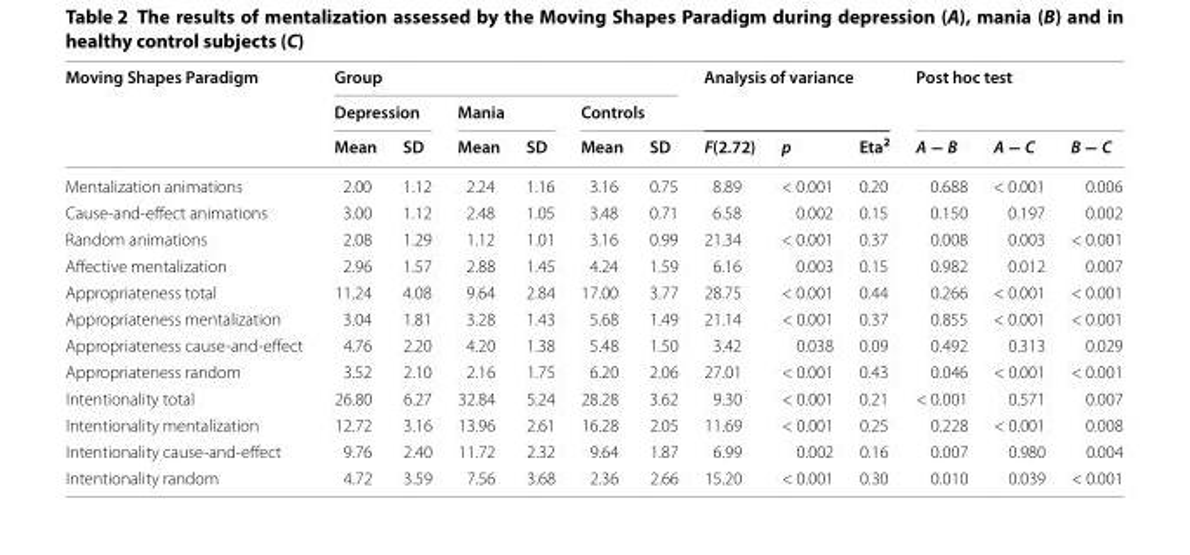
<table><thead><tr><td rowspan="3">Moving Shapes Paradigm</td><td colspan="6">Group</td><td rowspan="2" colspan="3">Analysis of variance</td><td rowspan="2" colspan="3">Post hoc test</td></tr><tr><td colspan="2">Depression</td><td colspan="2">Mania</td><td colspan="2">Controls</td></tr><tr><td>Mean</td><td>SD</td><td>Mean</td><td>SD</td><td>Mean</td><td>SD</td><td>F(2.72)</td><td>p</td><td>Eta<sup>2</sup></td><td>A − B</td><td>A − C</td><td>B − C</td></tr></thead><tbody><tr><td>Mentalization animations</td><td>2.00</td><td>1.12</td><td>2.24</td><td>1.16</td><td>3.16</td><td>0.75</td><td>8.89</td><td>&lt; 0.001</td><td>0.20</td><td>0.688</td><td>&lt; 0.001</td><td>0.006</td></tr><tr><td>Cause-and-effect animations</td><td>3.00</td><td>1.12</td><td>2.48</td><td>1.05</td><td>3.48</td><td>0.71</td><td>6.58</td><td>0.002</td><td>0.15</td><td>0.150</td><td>0.197</td><td>0.002</td></tr><tr><td>Random animations</td><td>2.08</td><td>1.29</td><td>1.12</td><td>1.01</td><td>3.16</td><td>0.99</td><td>21.34</td><td>&lt; 0.001</td><td>0.37</td><td>0.008</td><td>0.003</td><td>&lt; 0.001</td></tr><tr><td>Affective mentalization</td><td>2.96</td><td>1.57</td><td>2.88</td><td>1.45</td><td>4.24</td><td>1.59</td><td>6.16</td><td>0.003</td><td>0.15</td><td>0.982</td><td>0.012</td><td>0.007</td></tr><tr><td>Appropriateness total</td><td>11.24</td><td>4.08</td><td>9.64</td><td>2.84</td><td>17.00</td><td>3.77</td><td>28.75</td><td>&lt; 0.001</td><td>0.44</td><td>0.266</td><td>&lt; 0.001</td><td>&lt; 0.001</td></tr><tr><td>Appropriateness mentalization</td><td>3.04</td><td>1.81</td><td>3.28</td><td>1.43</td><td>5.68</td><td>1.49</td><td>21.14</td><td>&lt; 0.001</td><td>0.37</td><td>0.855</td><td>&lt; 0.001</td><td>&lt; 0.001</td></tr><tr><td>Appropriateness cause-and-effect</td><td>4.76</td><td>2.20</td><td>4.20</td><td>1.38</td><td>5.48</td><td>1.50</td><td>3.42</td><td>0.038</td><td>0.09</td><td>0.492</td><td>0.313</td><td>0.029</td></tr><tr><td>Appropriateness random</td><td>3.52</td><td>2.10</td><td>2.16</td><td>1.75</td><td>6.20</td><td>2.06</td><td>27.01</td><td>&lt; 0.001</td><td>0.43</td><td>0.046</td><td>&lt; 0.001</td><td>&lt; 0.001</td></tr><tr><td>Intentionality total</td><td>26.80</td><td>6.27</td><td>32.84</td><td>5.24</td><td>28.28</td><td>3.62</td><td>9.30</td><td>&lt; 0.001</td><td>0.21</td><td>&lt; 0.001</td><td>0.571</td><td>0.007</td></tr><tr><td>Intentionality mentalization</td><td>12.72</td><td>3.16</td><td>13.96</td><td>2.61</td><td>16.28</td><td>2.05</td><td>11.69</td><td>&lt; 0.001</td><td>0.25</td><td>0.228</td><td>&lt; 0.001</td><td>0.008</td></tr><tr><td>Intentionality cause-and-effect</td><td>9.76</td><td>2.40</td><td>11.72</td><td>2.32</td><td>9.64</td><td>1.87</td><td>6.99</td><td>0.002</td><td>0.16</td><td>0.007</td><td>0.980</td><td>0.004</td></tr><tr><td>Intentionality random</td><td>4.72</td><td>3.59</td><td>7.56</td><td>3.68</td><td>2.36</td><td>2.66</td><td>15.20</td><td>&lt; 0.001</td><td>0.30</td><td>0.010</td><td>0.039</td><td>&lt; 0.001</td></tr></tbody></table>